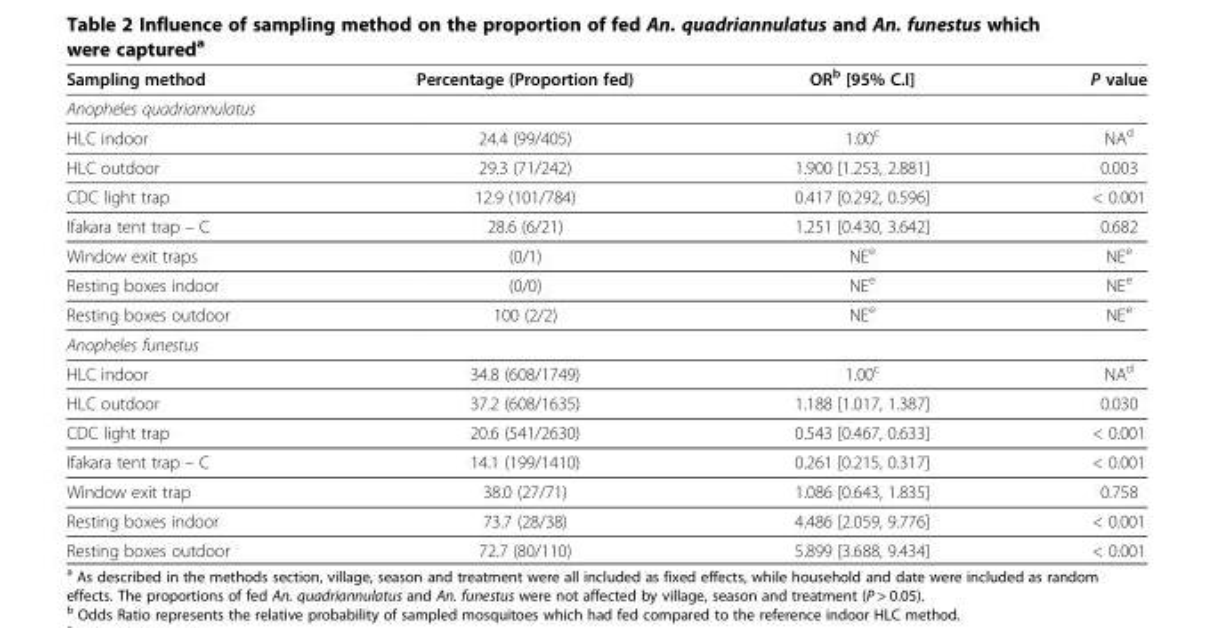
<table><thead><tr><td>Sampling method</td><td>Percentage (Proportion fed)</td><td>OR<sup>b</sup> [95% C.I]</td><td>P value</td></tr></thead><tbody><tr><td colspan="4">Anopheles quadriannulatus</td></tr><tr><td>HLC indoor</td><td>24.4 (99/405)</td><td>1.00<sup>c</sup></td><td>NA<sup>d</sup></td></tr><tr><td>HLC outdoor</td><td>29.3 (71/242)</td><td>1.900 [1.253, 2.881]</td><td>0.003</td></tr><tr><td>CDC light trap</td><td>12.9 (101/784)</td><td>0.417 [0.292, 0.596]</td><td>&lt; 0.001</td></tr><tr><td>Ifakara tent trap – C</td><td>28.6 (6/21)</td><td>1.251 [0.430, 3.642]</td><td>0.682</td></tr><tr><td>Window exit traps</td><td>(0/1)</td><td>NE<sup>e</sup></td><td>NE<sup>e</sup></td></tr><tr><td>Resting boxes indoor</td><td>(0/0)</td><td>NE<sup>e</sup></td><td>NE<sup>e</sup></td></tr><tr><td>Resting boxes outdoor</td><td>100 (2/2)</td><td>NE<sup>e</sup></td><td>NE<sup>e</sup></td></tr><tr><td colspan="4">Anopheles funestus</td></tr><tr><td>HLC indoor</td><td>34.8 (608/1749)</td><td>1.00<sup>c</sup></td><td>NA<sup>d</sup></td></tr><tr><td>HLC outdoor</td><td>37.2 (608/1635)</td><td>1.188 [1.017, 1.387]</td><td>0.030</td></tr><tr><td>CDC light trap</td><td>20.6 (541/2630)</td><td>0.543 [0.467, 0.633]</td><td>&lt; 0.001</td></tr><tr><td>Ifakara tent trap – C</td><td>14.1 (199/1410)</td><td>0.261 [0.215, 0.317]</td><td>&lt; 0.001</td></tr><tr><td>Window exit trap</td><td>38.0 (27/71)</td><td>1.086 [0.643, 1.835]</td><td>0.758</td></tr><tr><td>Resting boxes indoor</td><td>73.7 (28/38)</td><td>4.486 [2.059, 9.776]</td><td>&lt; 0.001</td></tr><tr><td>Resting boxes outdoor</td><td>72.7 (80/110)</td><td>5.899 [3.688, 9.434]</td><td>&lt; 0.001</td></tr></tbody></table>